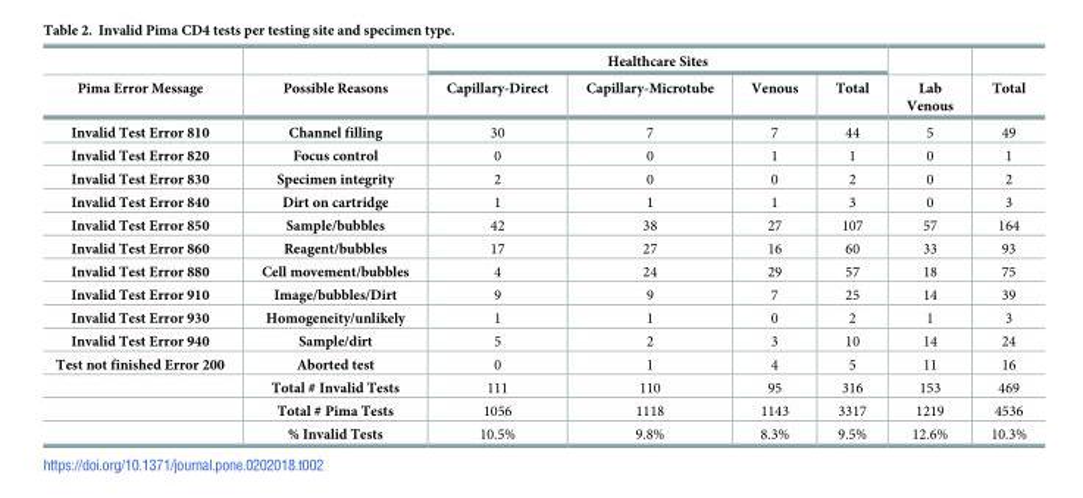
<table><thead><tr><td rowspan="2">Pima Error Message</td><td rowspan="2">Possible Reasons</td><td colspan="4">Healthcare Sites</td><td rowspan="2">Lab Venous</td><td rowspan="2">Total</td></tr><tr><td>Capillary-Direct</td><td>Capillary-Microtube</td><td>Venous</td><td>Total</td></tr></thead><tbody><tr><td>Invalid Test Error 810</td><td>Channel filling</td><td>30</td><td>7</td><td>7</td><td>44</td><td>5</td><td>49</td></tr><tr><td>Invalid Test Error 820</td><td>Focus control</td><td>0</td><td>0</td><td>1</td><td>1</td><td>0</td><td>1</td></tr><tr><td>Invalid Test Error 830</td><td>Specimen integrity</td><td>2</td><td>0</td><td>0</td><td>2</td><td>0</td><td>2</td></tr><tr><td>Invalid Test Error 840</td><td>Dirt on cartridge</td><td>1</td><td>1</td><td>1</td><td>3</td><td>0</td><td>3</td></tr><tr><td>Invalid Test Error 850</td><td>Sample/bubbles</td><td>42</td><td>38</td><td>27</td><td>107</td><td>57</td><td>164</td></tr><tr><td>Invalid Test Error 860</td><td>Reagent/bubbles</td><td>17</td><td>27</td><td>16</td><td>60</td><td>33</td><td>93</td></tr><tr><td>Invalid Test Error 880</td><td>Cell movement/bubbles</td><td>4</td><td>24</td><td>29</td><td>57</td><td>18</td><td>75</td></tr><tr><td>Invalid Test Error 910</td><td>Image/bubbles/Dirt</td><td>9</td><td>9</td><td>7</td><td>25</td><td>14</td><td>39</td></tr><tr><td>Invalid Test Error 930</td><td>Homogeneity/unlikely</td><td>1</td><td>1</td><td>0</td><td>2</td><td>1</td><td>3</td></tr><tr><td>Invalid Test Error 940</td><td>Sample/dirt</td><td>5</td><td>2</td><td>3</td><td>10</td><td>14</td><td>24</td></tr><tr><td rowspan="4">Test not finished Error 200</td><td>Aborted test</td><td>0</td><td>1</td><td>4</td><td>5</td><td>11</td><td>16</td></tr><tr><td>Total # Invalid Tests</td><td>111</td><td>110</td><td>95</td><td>316</td><td>153</td><td>469</td></tr><tr><td>Total # Pima Tests</td><td>1056</td><td>1118</td><td>1143</td><td>3317</td><td>1219</td><td>4536</td></tr><tr><td>% Invalid Tests</td><td>10.5%</td><td>9.8%</td><td>8.3%</td><td>9.5%</td><td>12.6%</td><td>10.3%</td></tr></tbody></table>